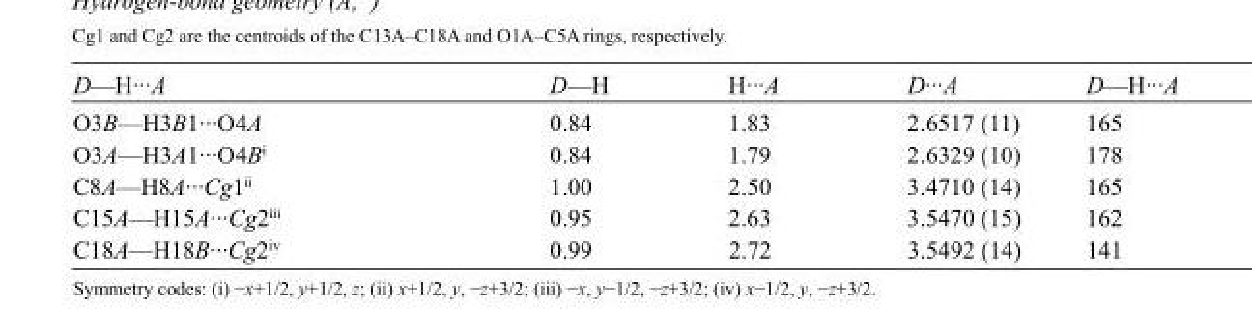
<table><tbody><tr><td>D—H···A</td><td>D—H</td><td>H···A</td><td>D···A</td><td>D—H···A</td></tr><tr><td>O3B—H3B1···O4A</td><td>0.84</td><td>1.83</td><td>2.6517 (11)</td><td>165</td></tr><tr><td>O3A—H3A1···O4B<sup>i</sup></td><td>0.84</td><td>1.79</td><td>2.6329 (10)</td><td>178</td></tr><tr><td>C8A—H8A···Cg1<sup>ii</sup></td><td>1.00</td><td>2.50</td><td>3.4710 (14)</td><td>165</td></tr><tr><td>C15A—H15A···Cg2<sup>iii</sup></td><td>0.95</td><td>2.63</td><td>3.5470 (15)</td><td>162</td></tr><tr><td>C18A—H18B···Cg2<sup>iv</sup></td><td>0.99</td><td>2.72</td><td>3.5492 (14)</td><td>141</td></tr></tbody></table>